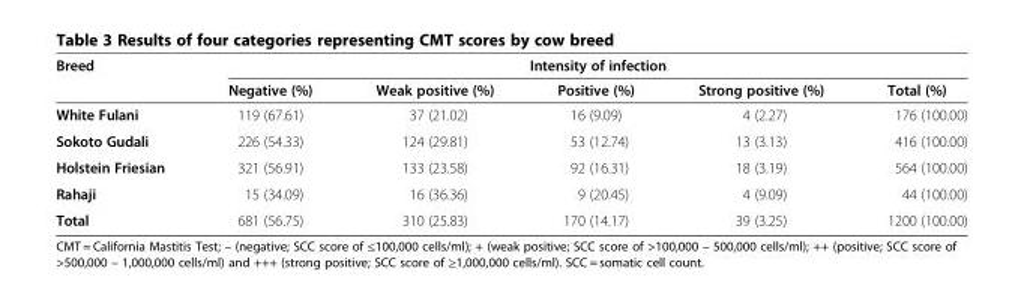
<table><thead><tr><td rowspan="2">Breed</td><td colspan="5">Intensity of infection</td></tr><tr><td>Negative (%)</td><td>Weak positive (%)</td><td>Positive (%)</td><td>Strong positive (%)</td><td>Total (%)</td></tr></thead><tbody><tr><td>White Fulani</td><td>119 (67.61)</td><td>37 (21.02)</td><td>16 (9.09)</td><td>4 (2.27)</td><td>176 (100.00)</td></tr><tr><td>Sokoto Gudali</td><td>226 (54.33)</td><td>124 (29.81)</td><td>53 (12.74)</td><td>13 (3.13)</td><td>416 (100.00)</td></tr><tr><td>Holstein Friesian</td><td>321 (56.91)</td><td>133 (23.58)</td><td>92 (16.31)</td><td>18 (3.19)</td><td>564 (100.00)</td></tr><tr><td>Rahaji</td><td>15 (34.09)</td><td>16 (36.36)</td><td>9 (20.45)</td><td>4 (9.09)</td><td>44 (100.00)</td></tr><tr><td>Total</td><td>681 (56.75)</td><td>310 (25.83)</td><td>170 (14.17)</td><td>39 (3.25)</td><td>1200 (100.00)</td></tr></tbody></table>